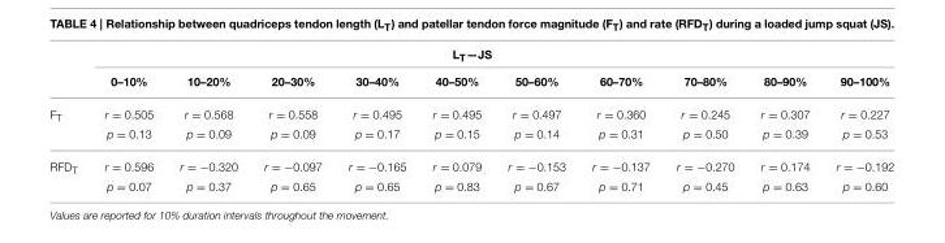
<table><thead><tr><td colspan="11">L<sub>T</sub>—JS</td></tr><tr><td></td><td>0–10%</td><td>10–20%</td><td>20–30%</td><td>30–40%</td><td>40–50%</td><td>50–60%</td><td>60–70%</td><td>70–80%</td><td>80–90%</td><td>90–100%</td></tr></thead><tbody><tr><td rowspan="2">F<sub>T</sub></td><td>r = 0.505</td><td>r = 0.568</td><td>r = 0.558</td><td>r = 0.495</td><td>r = 0.495</td><td>r = 0.497</td><td>r = 0.360</td><td>r = 0.245</td><td>r = 0.307</td><td>r = 0.227</td></tr><tr><td>p = 0.13</td><td>p = 0.09</td><td>p = 0.09</td><td>p = 0.17</td><td>p = 0.15</td><td>p = 0.14</td><td>p = 0.31</td><td>p = 0.50</td><td>p = 0.39</td><td>p = 0.53</td></tr><tr><td rowspan="2">RFD<sub>T</sub></td><td>r = 0.596</td><td>r = −0.320</td><td>r = −0.097</td><td>r = −0.165</td><td>r = 0.079</td><td>r = −0.153</td><td>r = −0.137</td><td>r = −0.270</td><td>r = 0.174</td><td>r = −0.192</td></tr><tr><td>p = 0.07</td><td>p = 0.37</td><td>p = 0.65</td><td>p = 0.65</td><td>p = 0.83</td><td>p = 0.67</td><td>p = 0.71</td><td>p = 0.45</td><td>p = 0.63</td><td>p = 0.60</td></tr></tbody></table>